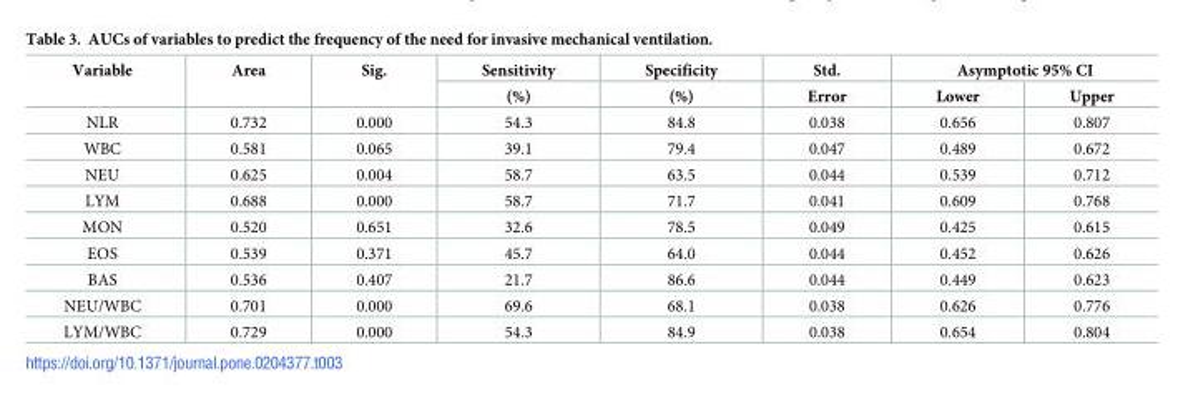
<table><thead><tr><td rowspan="2">Variable</td><td rowspan="2">Area</td><td rowspan="2">Sig.</td><td rowspan="2">Sensitivity (%)</td><td rowspan="2">Specificity (%)</td><td rowspan="2">Std. Error</td><td colspan="2">Asymptotic 95% CI</td></tr><tr><td>Lower</td><td>Upper</td></tr></thead><tbody><tr><td>NLR</td><td>0.732</td><td>0.000</td><td>54.3</td><td>84.8</td><td>0.038</td><td>0.656</td><td>0.807</td></tr><tr><td>WBC</td><td>0.581</td><td>0.065</td><td>39.1</td><td>79.4</td><td>0.047</td><td>0.489</td><td>0.672</td></tr><tr><td>NEU</td><td>0.625</td><td>0.004</td><td>58.7</td><td>63.5</td><td>0.044</td><td>0.539</td><td>0.712</td></tr><tr><td>LYM</td><td>0.688</td><td>0.000</td><td>58.7</td><td>71.7</td><td>0.041</td><td>0.609</td><td>0.768</td></tr><tr><td>MON</td><td>0.520</td><td>0.651</td><td>32.6</td><td>78.5</td><td>0.049</td><td>0.425</td><td>0.615</td></tr><tr><td>EOS</td><td>0.539</td><td>0.371</td><td>45.7</td><td>64.0</td><td>0.044</td><td>0.452</td><td>0.626</td></tr><tr><td>BAS</td><td>0.536</td><td>0.407</td><td>21.7</td><td>86.6</td><td>0.044</td><td>0.449</td><td>0.623</td></tr><tr><td>NEU/WBC</td><td>0.701</td><td>0.000</td><td>69.6</td><td>68.1</td><td>0.038</td><td>0.626</td><td>0.776</td></tr><tr><td>LYM/WBC</td><td>0.729</td><td>0.000</td><td>54.3</td><td>84.9</td><td>0.038</td><td>0.654</td><td>0.804</td></tr></tbody></table>